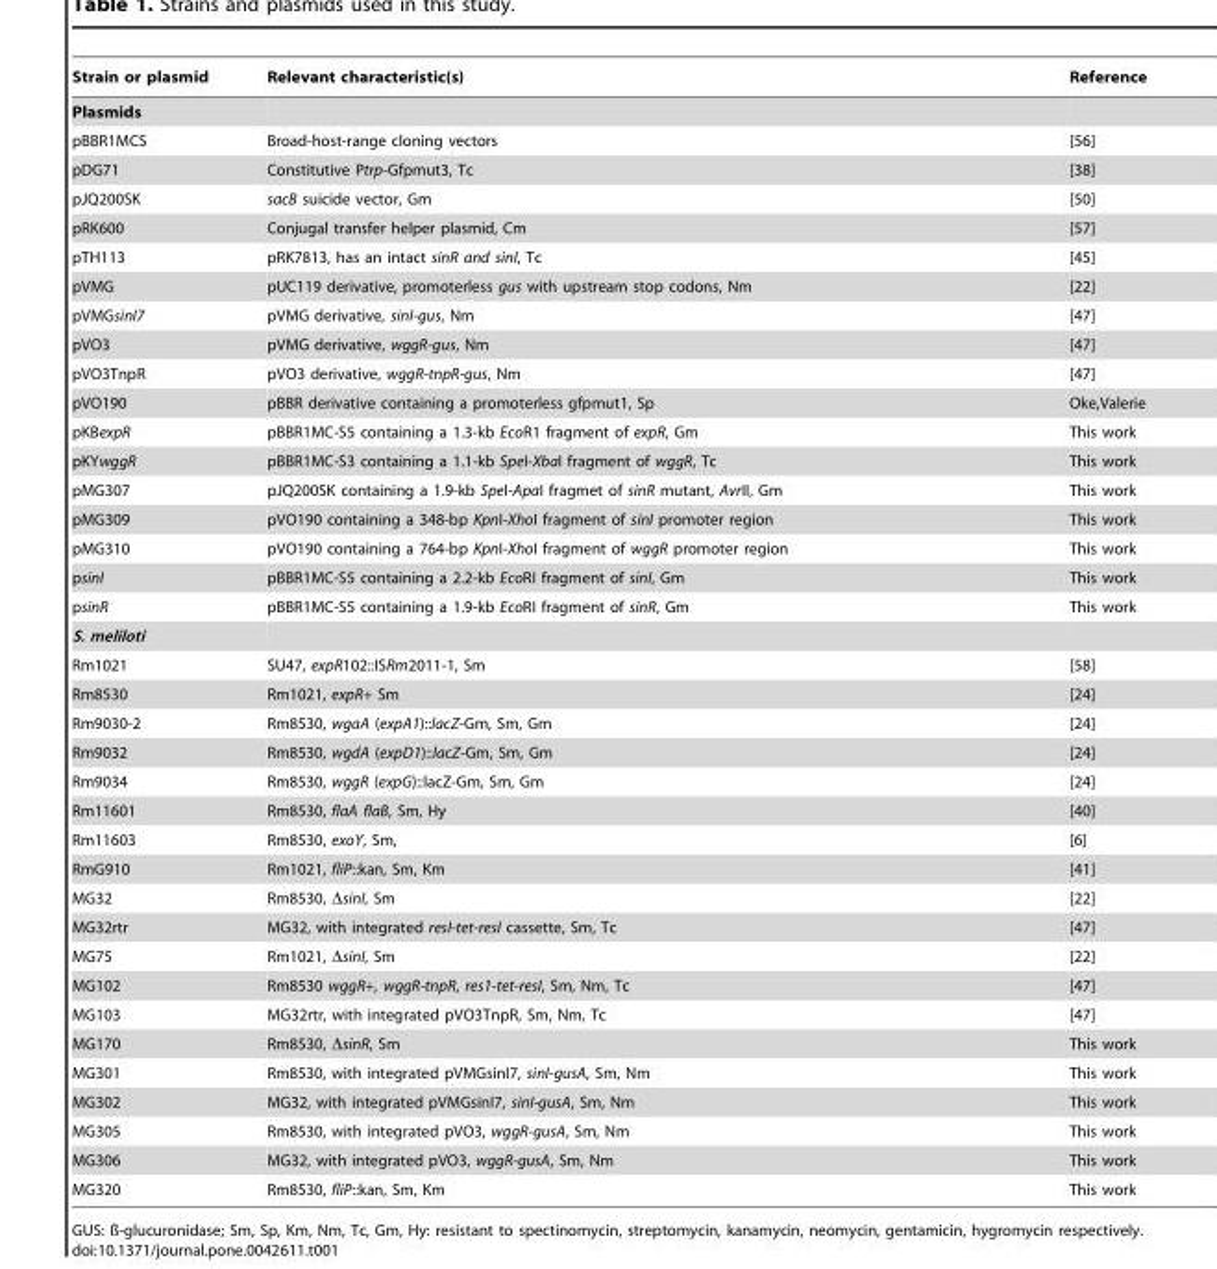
<table><thead><tr><td>Strain or plasmid</td><td>Relevant characteristic(s)</td><td>Reference</td></tr></thead><tbody><tr><td colspan="3">Plasmids</td></tr><tr><td>pBBR1MCS</td><td>Broad-host-range cloning vectors</td><td>[56]</td></tr><tr><td>pDG71</td><td>Constitutive Ptrp-Gfpmut3, Tc</td><td>[38]</td></tr><tr><td>pJQ200SK</td><td>sacB suicide vector, Gm</td><td>[50]</td></tr><tr><td>pRK600</td><td>Conjugal transfer helper plasmid, Cm</td><td>[57]</td></tr><tr><td>pTH113</td><td>pRK7813, has an intact sinR and sinI, Tc</td><td>[45]</td></tr><tr><td>pVMG</td><td>pUC119 derivative, promoterless gus with upstream stop codons, Nm</td><td>[22]</td></tr><tr><td>pVMGsinI7</td><td>pVMG derivative, sinI-gus, Nm</td><td>[47]</td></tr><tr><td>pVO3</td><td>pVMG derivative, wggR-gus, Nm</td><td>[47]</td></tr><tr><td>pVO3TnpR</td><td>pVO3 derivative, wggR-tnpR-gus, Nm</td><td>[47]</td></tr><tr><td>pVO190</td><td>pBBR derivative containing a promoterless gfpmut1, Sp</td><td>Oke,Valerie</td></tr><tr><td>pKBexpR</td><td>pBBR1MC-S5 containing a 1.3-kb EcoR1 fragment of expR, Gm</td><td>This work</td></tr><tr><td>pKYwggR</td><td>pBBR1MC-S3 containing a 1.1-kb SpeI-XbaI fragment of wggR, Tc</td><td>This work</td></tr><tr><td>pMG307</td><td>pJQ200SK containing a 1.9-kb SpeI-ApaI fragmet of sinR mutant, AvrII, Gm</td><td>This work</td></tr><tr><td>pMG309</td><td>pVO190 containing a 348-bp KpnI-XhoI fragment of sinI promoter region</td><td>This work</td></tr><tr><td>pMG310</td><td>pVO190 containing a 764-bp KpnI-XhoI fragment of wggR promoter region</td><td>This work</td></tr><tr><td>psinI</td><td>pBBR1MC-S5 containing a 2.2-kb EcoRI fragment of sinI, Gm</td><td>This work</td></tr><tr><td>psinR</td><td>pBBR1MC-S5 containing a 1.9-kb EcoRI fragment of sinR, Gm</td><td>This work</td></tr><tr><td colspan="3">S. meliloti</td></tr><tr><td>Rm1021</td><td>SU47, expR102::ISRm2011-1, Sm</td><td>[58]</td></tr><tr><td>Rm8530</td><td>Rm1021, expR+ Sm</td><td>[24]</td></tr><tr><td>Rm9030-2</td><td>Rm8530, wgaA (expA1)::lacZ-Gm, Sm, Gm</td><td>[24]</td></tr><tr><td>Rm9032</td><td>Rm8530, wgdA (expD1)::lacZ-Gm, Sm, Gm</td><td>[24]</td></tr><tr><td>Rm9034</td><td>Rm8530, wggR (expG)::lacZ-Gm, Sm, Gm</td><td>[24]</td></tr><tr><td>Rm11601</td><td>Rm8530, flaA flaB, Sm, Hy</td><td>[40]</td></tr><tr><td>Rm11603</td><td>Rm8530, exoY, Sm,</td><td>[6]</td></tr><tr><td>RmG910</td><td>Rm1021, fliP::kan, Sm, Km</td><td>[41]</td></tr><tr><td>MG32</td><td>Rm8530, ΔsinI, Sm</td><td>[22]</td></tr><tr><td>MG32rtr</td><td>MG32, with integrated resI-tet-resI cassette, Sm, Tc</td><td>[47]</td></tr><tr><td>MG75</td><td>Rm1021, ΔsinI, Sm</td><td>[22]</td></tr><tr><td>MG102</td><td>Rm8530 wggR+, wggR-tnpR, res1-tet-resI, Sm, Nm, Tc</td><td>[47]</td></tr><tr><td>MG103</td><td>MG32rtr, with integrated pVO3TnpR, Sm, Nm, Tc</td><td>[47]</td></tr><tr><td>MG170</td><td>Rm8530, ΔsinR, Sm</td><td>This work</td></tr><tr><td>MG301</td><td>Rm8530, with integrated pVMGsinI7, sinI-gusA, Sm, Nm</td><td>This work</td></tr><tr><td>MG302</td><td>MG32, with integrated pVMGsinI7, sinI-gusA, Sm, Nm</td><td>This work</td></tr><tr><td>MG305</td><td>Rm8530, with integrated pVO3, wggR-gusA, Sm, Nm</td><td>This work</td></tr><tr><td>MG306</td><td>MG32, with integrated pVO3, wggR-gusA, Sm, Nm</td><td>This work</td></tr><tr><td>MG320</td><td>Rm8530, fliP::kan, Sm, Km</td><td>This work</td></tr></tbody></table>